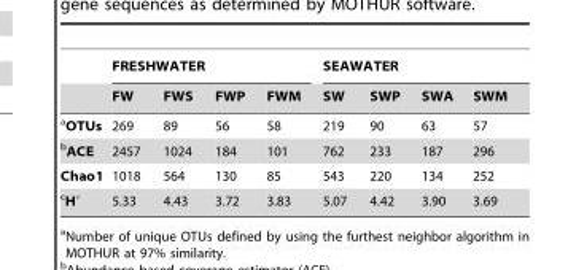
<table><thead><tr><td rowspan="2"></td><td colspan="4">FRESHWATER</td><td colspan="4">SEAWATER</td></tr><tr><td>FW</td><td>FWS</td><td>FWP</td><td>FWM</td><td>SW</td><td>SWP</td><td>SWA</td><td>SWM</td></tr></thead><tbody><tr><td>aOTUs</td><td>269</td><td>89</td><td>56</td><td>58</td><td>219</td><td>90</td><td>63</td><td>57</td></tr><tr><td>bACE</td><td>2457</td><td>1024</td><td>184</td><td>101</td><td>762</td><td>233</td><td>187</td><td>296</td></tr><tr><td>Chao1</td><td>1018</td><td>564</td><td>130</td><td>85</td><td>543</td><td>220</td><td>134</td><td>252</td></tr><tr><td>cH′</td><td>5.33</td><td>4.43</td><td>3.72</td><td>3.83</td><td>5.07</td><td>4.42</td><td>3.90</td><td>3.69</td></tr></tbody></table>